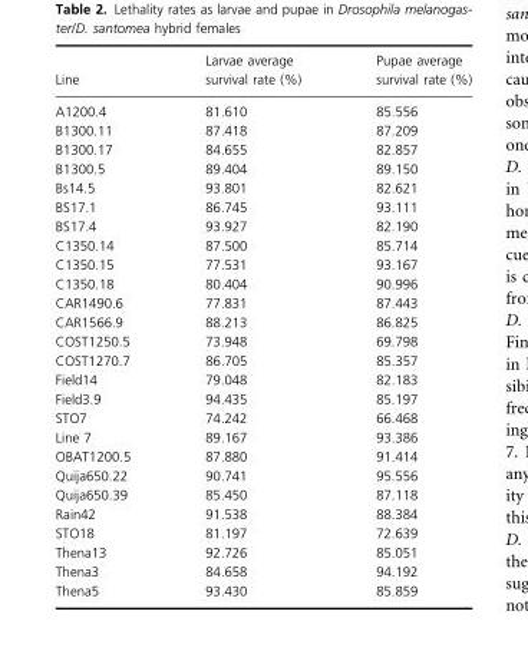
<table><thead><tr><td>Line</td><td>Larvae average survival rate (%)</td><td>Pupae average survival rate (%)</td></tr></thead><tbody><tr><td>A1200.4</td><td>81.610</td><td>85.556</td></tr><tr><td>B1300.11</td><td>87.418</td><td>87.209</td></tr><tr><td>B1300.17</td><td>84.655</td><td>82.857</td></tr><tr><td>B1300.5</td><td>89.404</td><td>89.150</td></tr><tr><td>Bs14.5</td><td>93.801</td><td>82.621</td></tr><tr><td>BS17.1</td><td>86.745</td><td>93.111</td></tr><tr><td>BS17.4</td><td>93.927</td><td>82.190</td></tr><tr><td>C1350.14</td><td>87.500</td><td>85.714</td></tr><tr><td>C1350.15</td><td>77.531</td><td>93.167</td></tr><tr><td>C1350.18</td><td>80.404</td><td>90.996</td></tr><tr><td>CAR1490.6</td><td>77.831</td><td>87.443</td></tr><tr><td>CAR1566.9</td><td>88.213</td><td>86.825</td></tr><tr><td>COST1250.5</td><td>73.948</td><td>69.798</td></tr><tr><td>COST1270.7</td><td>86.705</td><td>85.357</td></tr><tr><td>Field14</td><td>79.048</td><td>82.183</td></tr><tr><td>Field3.9</td><td>94.435</td><td>85.197</td></tr><tr><td>STO7</td><td>74.242</td><td>66.468</td></tr><tr><td>Line 7</td><td>89.167</td><td>93.386</td></tr><tr><td>OBAT1200.5</td><td>87.880</td><td>91.414</td></tr><tr><td>Quija650.22</td><td>90.741</td><td>95.556</td></tr><tr><td>Quija650.39</td><td>85.450</td><td>87.118</td></tr><tr><td>Rain42</td><td>91.538</td><td>88.384</td></tr><tr><td>STO18</td><td>81.197</td><td>72.639</td></tr><tr><td>Thena13</td><td>92.726</td><td>85.051</td></tr><tr><td>Thena3</td><td>84.658</td><td>94.192</td></tr><tr><td>Thena5</td><td>93.430</td><td>85.859</td></tr></tbody></table>